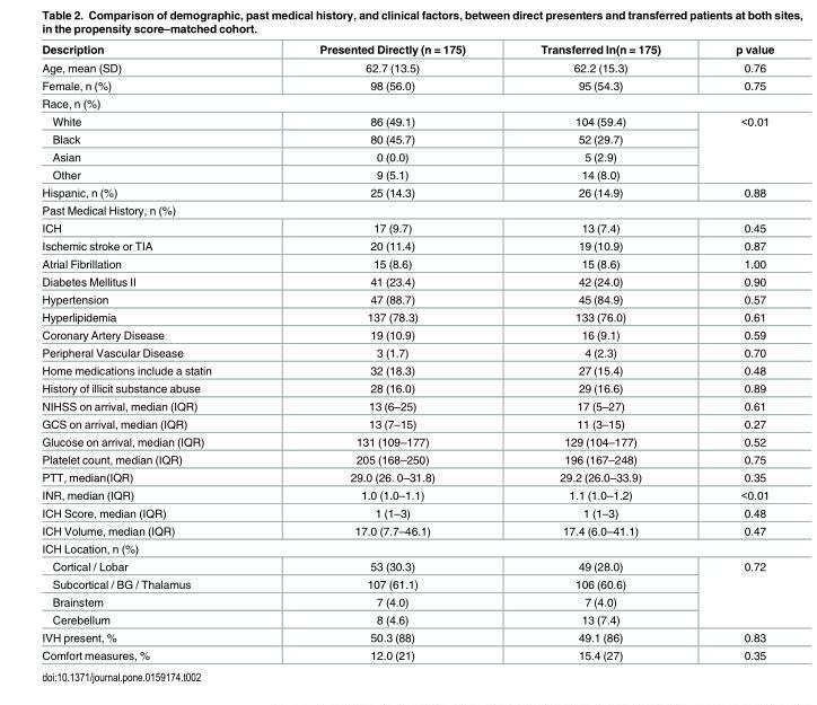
<table><thead><tr><td>Description</td><td>Presented Directly (n = 175)</td><td>Transferred In(n = 175)</td><td>p value</td></tr></thead><tbody><tr><td>Age, mean (SD)</td><td>62.7 (13.5)</td><td>62.2 (15.3)</td><td>0.76</td></tr><tr><td>Female, n (%)</td><td>98 (56.0)</td><td>95 (54.3)</td><td>0.75</td></tr><tr><td colspan="4">Race, n (%)</td></tr><tr><td>White</td><td>86 (49.1)</td><td>104 (59.4)</td><td rowspan="4">&lt;0.01</td></tr><tr><td>Black</td><td>80 (45.7)</td><td>52 (29.7)</td></tr><tr><td>Asian</td><td>0 (0.0)</td><td>5 (2.9)</td></tr><tr><td>Other</td><td>9 (5.1)</td><td>14 (8.0)</td></tr><tr><td>Hispanic, n (%)</td><td>25 (14.3)</td><td>26 (14.9)</td><td>0.88</td></tr><tr><td colspan="4">Past Medical History, n (%)</td></tr><tr><td>ICH</td><td>17 (9.7)</td><td>13 (7.4)</td><td>0.45</td></tr><tr><td>Ischemic stroke or TIA</td><td>20 (11.4)</td><td>19 (10.9)</td><td>0.87</td></tr><tr><td>Atrial Fibrillation</td><td>15 (8.6)</td><td>15 (8.6)</td><td>1.00</td></tr><tr><td>Diabetes Mellitus II</td><td>41 (23.4)</td><td>42 (24.0)</td><td>0.90</td></tr><tr><td>Hypertension</td><td>47 (88.7)</td><td>45 (84.9)</td><td>0.57</td></tr><tr><td>Hyperlipidemia</td><td>137 (78.3)</td><td>133 (76.0)</td><td>0.61</td></tr><tr><td>Coronary Artery Disease</td><td>19 (10.9)</td><td>16 (9.1)</td><td>0.59</td></tr><tr><td>Peripheral Vascular Disease</td><td>3 (1.7)</td><td>4 (2.3)</td><td>0.70</td></tr><tr><td>Home medications include a statin</td><td>32 (18.3)</td><td>27 (15.4)</td><td>0.48</td></tr><tr><td>History of illicit substance abuse</td><td>28 (16.0)</td><td>29 (16.6)</td><td>0.89</td></tr><tr><td>NIHSS on arrival, median (IQR)</td><td>13 (6–25)</td><td>17 (5–27)</td><td>0.61</td></tr><tr><td>GCS on arrival, median (IQR)</td><td>13 (7–15)</td><td>11 (3–15)</td><td>0.27</td></tr><tr><td>Glucose on arrival, median (IQR)</td><td>131 (109–177)</td><td>129 (104–177)</td><td>0.52</td></tr><tr><td>Platelet count, median (IQR)</td><td>205 (168–250)</td><td>196 (167–248)</td><td>0.75</td></tr><tr><td>PTT, median(IQR)</td><td>29.0 (26. 0–31.8)</td><td>29.2 (26.0–33.9)</td><td>0.35</td></tr><tr><td>INR, median (IQR)</td><td>1.0 (1.0–1.1)</td><td>1.1 (1.0–1.2)</td><td>&lt;0.01</td></tr><tr><td>ICH Score, median (IQR)</td><td>1 (1–3)</td><td>1 (1–3)</td><td>0.48</td></tr><tr><td>ICH Volume, median (IQR)</td><td>17.0 (7.7–46.1)</td><td>17.4 (6.0–41.1)</td><td>0.47</td></tr><tr><td colspan="4">ICH Location, n (%)</td></tr><tr><td>Cortical / Lobar</td><td>53 (30.3)</td><td>49 (28.0)</td><td rowspan="4">0.72</td></tr><tr><td>Subcortical / BG / Thalamus</td><td>107 (61.1)</td><td>106 (60.6)</td></tr><tr><td>Brainstem</td><td>7 (4.0)</td><td>7 (4.0)</td></tr><tr><td>Cerebellum</td><td>8 (4.6)</td><td>13 (7.4)</td></tr><tr><td>IVH present, %</td><td>50.3 (88)</td><td>49.1 (86)</td><td>0.83</td></tr><tr><td>Comfort measures, %</td><td>12.0 (21)</td><td>15.4 (27)</td><td>0.35</td></tr></tbody></table>